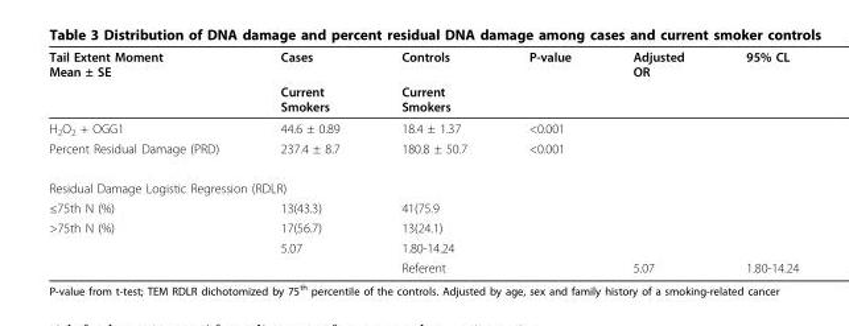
<table><thead><tr><td rowspan="2">Tail Extent Moment Mean ± SE</td><td rowspan="2">Cases Current Smokers</td><td rowspan="2">Controls Current Smokers</td><td rowspan="2">P-value</td><td rowspan="2">Adjusted OR</td><td rowspan="2">95% CL</td></tr><tr></tr></thead><tbody><tr><td>H<sub>2</sub>O<sub>2</sub> + OGG1</td><td>44.6 ± 0.89</td><td>18.4 ± 1.37</td><td>&lt;0.001</td><td></td><td></td></tr><tr><td>Percent Residual Damage (PRD)</td><td>237.4 ± 8.7</td><td>180.8 ± 50.7</td><td>&lt;0.001</td><td></td><td></td></tr><tr><td colspan="6">Residual Damage Logistic Regression (RDLR)</td></tr><tr><td>≤75th N (%)</td><td>13(43.3)</td><td>41(75.9</td><td></td><td></td><td></td></tr><tr><td rowspan="3">&gt;75th N (%)</td><td>17(56.7)</td><td>13(24.1)</td><td></td><td></td><td></td></tr><tr><td>5.07</td><td>1.80-14.24</td><td></td><td></td><td></td></tr><tr><td></td><td>Referent</td><td></td><td>5.07</td><td>1.80-14.24</td></tr></tbody></table>